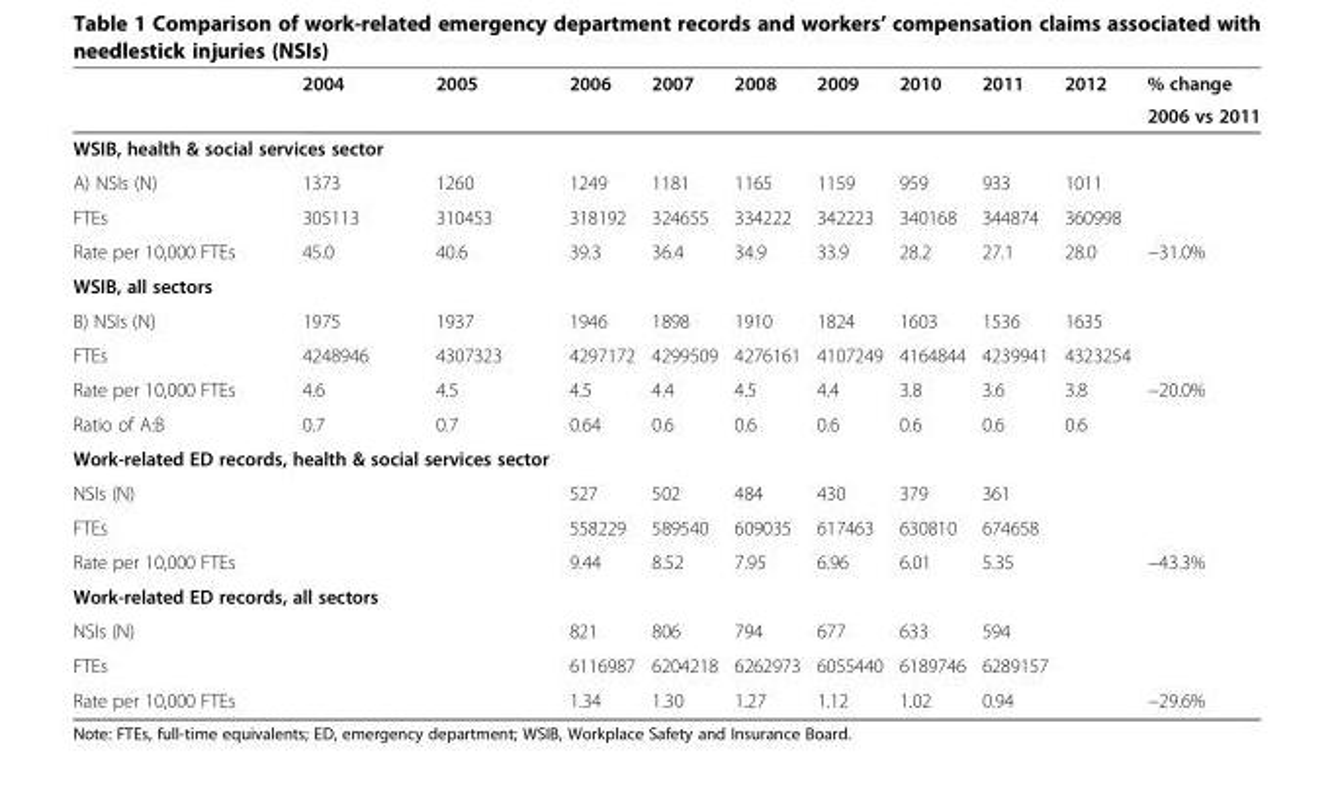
<table><thead><tr><td rowspan="2"></td><td rowspan="2">2004</td><td rowspan="2">2005</td><td rowspan="2">2006</td><td rowspan="2">2007</td><td rowspan="2">2008</td><td rowspan="2">2009</td><td rowspan="2">2010</td><td rowspan="2">2011</td><td rowspan="2">2012</td><td rowspan="2">% change 2006 vs 2011</td></tr><tr></tr></thead><tbody><tr><td colspan="11">WSIB, health &amp; social services sector</td></tr><tr><td>A) NSIs (N)</td><td>1373</td><td>1260</td><td>1249</td><td>1181</td><td>1165</td><td>1159</td><td>959</td><td>933</td><td>1011</td><td></td></tr><tr><td>FTEs</td><td>305113</td><td>310453</td><td>318192</td><td>324655</td><td>334222</td><td>342223</td><td>340168</td><td>344874</td><td>360998</td><td></td></tr><tr><td>Rate per 10,000 FTEs</td><td>45.0</td><td>40.6</td><td>39.3</td><td>36.4</td><td>34.9</td><td>33.9</td><td>28.2</td><td>27.1</td><td>28.0</td><td>−31.0%</td></tr><tr><td colspan="11">WSIB, all sectors</td></tr><tr><td>B) NSIs (N)</td><td>1975</td><td>1937</td><td>1946</td><td>1898</td><td>1910</td><td>1824</td><td>1603</td><td>1536</td><td>1635</td><td></td></tr><tr><td>FTEs</td><td>4248946</td><td>4307323</td><td>4297172</td><td>4299509</td><td>4276161</td><td>4107249</td><td>4164844</td><td>4239941</td><td>4323254</td><td></td></tr><tr><td>Rate per 10,000 FTEs</td><td>4.6</td><td>4.5</td><td>4.5</td><td>4.4</td><td>4.5</td><td>4.4</td><td>3.8</td><td>3.6</td><td>3.8</td><td>−20.0%</td></tr><tr><td>Ratio of A:B</td><td>0.7</td><td>0.7</td><td>0.64</td><td>0.6</td><td>0.6</td><td>0.6</td><td>0.6</td><td>0.6</td><td>0.6</td><td></td></tr><tr><td colspan="11">Work-related ED records, health &amp; social services sector</td></tr><tr><td>NSIs (N)</td><td></td><td></td><td>527</td><td>502</td><td>484</td><td>430</td><td>379</td><td>361</td><td></td><td></td></tr><tr><td>FTEs</td><td></td><td></td><td>558229</td><td>589540</td><td>609035</td><td>617463</td><td>630810</td><td>674658</td><td></td><td></td></tr><tr><td>Rate per 10,000 FTEs</td><td></td><td></td><td>9.44</td><td>8.52</td><td>7.95</td><td>6.96</td><td>6.01</td><td>5.35</td><td></td><td>−43.3%</td></tr><tr><td colspan="11">Work-related ED records, all sectors</td></tr><tr><td>NSIs (N)</td><td></td><td></td><td>821</td><td>806</td><td>794</td><td>677</td><td>633</td><td>594</td><td></td><td></td></tr><tr><td>FTEs</td><td></td><td></td><td>6116987</td><td>6204218</td><td>6262973</td><td>6055440</td><td>6189746</td><td>6289157</td><td></td><td></td></tr><tr><td>Rate per 10,000 FTEs</td><td></td><td></td><td>1.34</td><td>1.30</td><td>1.27</td><td>1.12</td><td>1.02</td><td>0.94</td><td></td><td>−29.6%</td></tr></tbody></table>